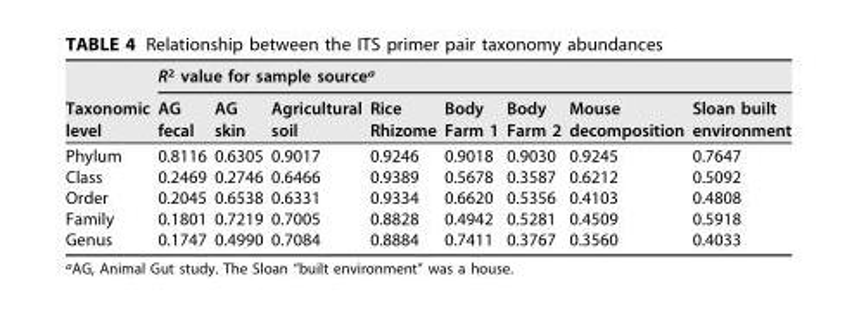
<table><thead><tr><td rowspan="2">Taxonomic level</td><td colspan="8">R<sup>2</sup> value for sample source<sup>a</sup></td></tr><tr><td>AG fecal</td><td>AG skin</td><td>Agricultural soil</td><td>Rice Rhizome</td><td>Body Farm 1</td><td>Body Farm 2</td><td>Mouse decomposition</td><td>Sloan built environment</td></tr></thead><tbody><tr><td>Phylum</td><td>0.8116</td><td>0.6305</td><td>0.9017</td><td>0.9246</td><td>0.9018</td><td>0.9030</td><td>0.9245</td><td>0.7647</td></tr><tr><td>Class</td><td>0.2469</td><td>0.2746</td><td>0.6466</td><td>0.9389</td><td>0.5678</td><td>0.3587</td><td>0.6212</td><td>0.5092</td></tr><tr><td>Order</td><td>0.2045</td><td>0.6538</td><td>0.6331</td><td>0.9334</td><td>0.6620</td><td>0.5356</td><td>0.4103</td><td>0.4808</td></tr><tr><td>Family</td><td>0.1801</td><td>0.7219</td><td>0.7005</td><td>0.8828</td><td>0.4942</td><td>0.5281</td><td>0.4509</td><td>0.5918</td></tr><tr><td>Genus</td><td>0.1747</td><td>0.4990</td><td>0.7084</td><td>0.8884</td><td>0.7411</td><td>0.3767</td><td>0.3560</td><td>0.4033</td></tr></tbody></table>